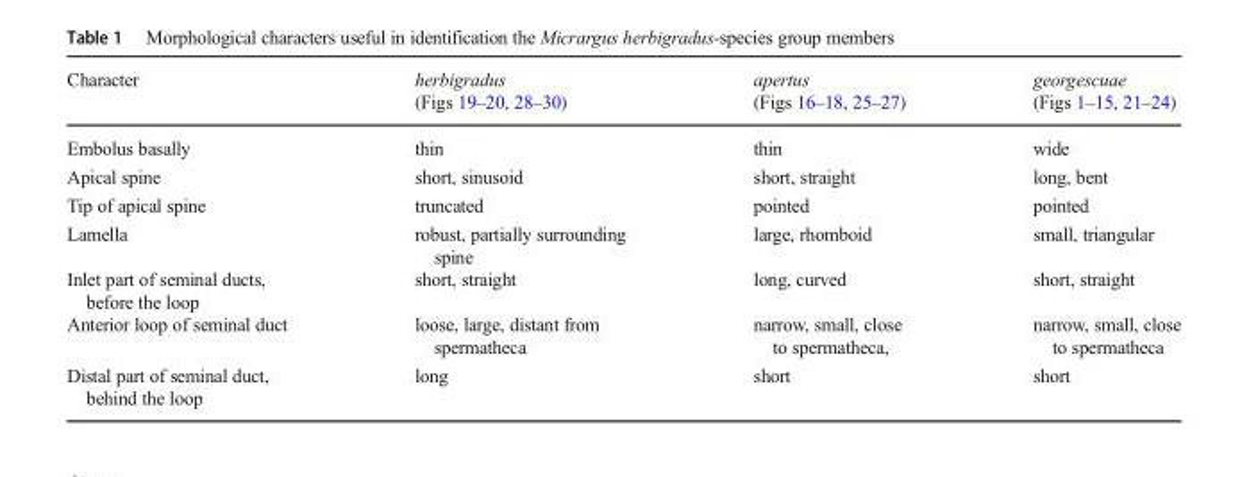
<table><thead><tr><td>Character</td><td>herbigradus (Figs 19–20, 28–30)</td><td>apertus (Figs 16–18, 25–27)</td><td>georgescuae (Figs 1–15, 21–24)</td></tr></thead><tbody><tr><td>Embolus basally</td><td>thin</td><td>thin</td><td>wide</td></tr><tr><td>Apical spine</td><td>short, sinusoid</td><td>short, straight</td><td>long, bent</td></tr><tr><td>Tip of apical spine</td><td>truncated</td><td>pointed</td><td>pointed</td></tr><tr><td>Lamella</td><td>robust, partially surrounding spine</td><td>large, rhomboid</td><td>small, triangular</td></tr><tr><td>Inlet part of seminal ducts, before the loop</td><td>short, straight</td><td>long, curved</td><td>short, straight</td></tr><tr><td>Anterior loop of seminal duct</td><td>loose, large, distant from spermatheca</td><td>narrow, small, close to spermatheca,</td><td>narrow, small, close to spermatheca</td></tr><tr><td>Distal part of seminal duct, behind the loop</td><td>long</td><td>short</td><td>short</td></tr></tbody></table>